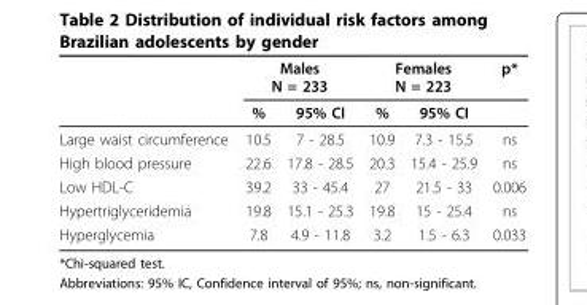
<table><thead><tr><td rowspan="2"></td><td colspan="2">Males N = 233</td><td colspan="2">Females N = 223</td><td rowspan="2">p*</td></tr><tr><td>%</td><td>95% CI</td><td>%</td><td>95% CI</td></tr></thead><tbody><tr><td>Large waist circumference</td><td>10.5</td><td>7 - 28.5</td><td>10.9</td><td>7.3 - 15.5</td><td>ns</td></tr><tr><td>High blood pressure</td><td>22.6</td><td>17.8 - 28.5</td><td>20.3</td><td>15.4 - 25.9</td><td>ns</td></tr><tr><td>Low HDL-C</td><td>39.2</td><td>33 - 45.4</td><td>27</td><td>21.5 - 33</td><td>0.006</td></tr><tr><td>Hypertriglyceridemia</td><td>19.8</td><td>15.1 - 25.3</td><td>19.8</td><td>15 - 25.4</td><td>ns</td></tr><tr><td>Hyperglycemia</td><td>7.8</td><td>4.9 - 11.8</td><td>3.2</td><td>1.5 - 6.3</td><td>0.033</td></tr></tbody></table>